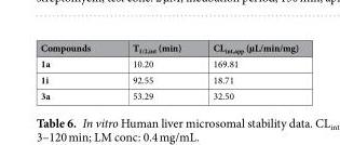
<table><thead><tr><td>Compounds</td><td>T<sub>1/2,int</sub> (min)</td><td>CL<sub>int,app</sub> (µL/min/mg)</td></tr></thead><tbody><tr><td>1a</td><td>10.20</td><td>169.81</td></tr><tr><td>1i</td><td>92.55</td><td>18.71</td></tr><tr><td>3a</td><td>53.29</td><td>32.50</td></tr></tbody></table>